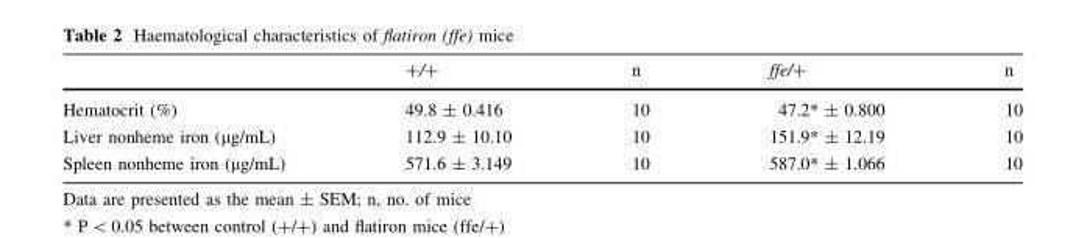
<table><thead><tr><td></td><td>+/+</td><td>n</td><td>ffe/+</td><td>n</td></tr></thead><tbody><tr><td>Hematocrit (%)</td><td>49.8 ± 0.416</td><td>10</td><td>47.2* ± 0.800</td><td>10</td></tr><tr><td>Liver nonheme iron (μg/mL)</td><td>112.9 ± 10.10</td><td>10</td><td>151.9* ± 12.19</td><td>10</td></tr><tr><td>Spleen nonheme iron (μg/mL)</td><td>571.6 ± 3.149</td><td>10</td><td>587.0* ± 1.066</td><td>10</td></tr></tbody></table>